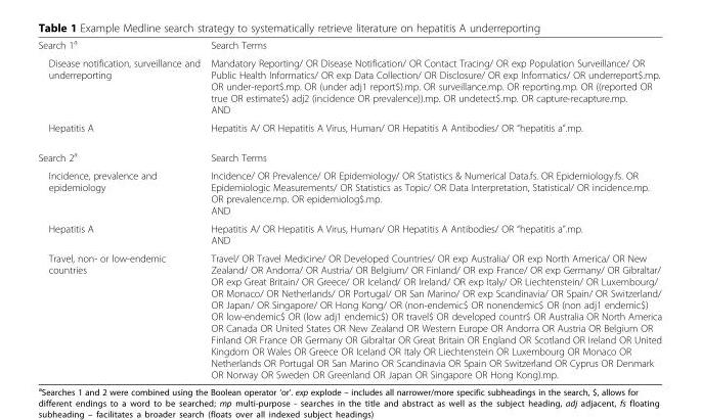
<table><tbody><tr><td>Search 1<sup>a</sup></td><td>Search Terms</td></tr><tr><td>Disease notification, surveillance and underreporting</td><td>Mandatory Reporting/ OR Disease Notification/ OR Contact Tracing/ OR exp Population Surveillance/ OR Public Health Informatics/ OR exp Data Collection/ OR Disclosure/ OR exp Informatics/ OR underreport$.mp. OR under-report$.mp. OR (under adj1 report$).mp. OR surveillance.mp. OR reporting.mp. OR ((reported OR true OR estimate$) adj2 (incidence OR prevalence)).mp. OR undetect$.mp. OR capture-recapture.mp. AND</td></tr><tr><td>Hepatitis A</td><td>Hepatitis A/ OR Hepatitis A Virus, Human/ OR Hepatitis A Antibodies/ OR “hepatitis a”.mp.</td></tr><tr><td>Search 2<sup>a</sup></td><td>Search Terms</td></tr><tr><td>Incidence, prevalence and epidemiology</td><td>Incidence/ OR Prevalence/ OR Epidemiology/ OR Statistics &amp; Numerical Data.fs. OR Epidemiology.fs. OR Epidemiologic Measurements/ OR Statistics as Topic/ OR Data Interpretation, Statistical/ OR incidence.mp. OR prevalence.mp. OR epidemiolog$.mp. AND</td></tr><tr><td>Hepatitis A</td><td>Hepatitis A/ OR Hepatitis A Virus, Human/ OR Hepatitis A Antibodies/ OR “hepatitis a”.mp. AND</td></tr><tr><td>Travel, non- or low-endemic countries</td><td>Travel/ OR Travel Medicine/ OR Developed Countries/ OR exp Australia/ OR exp North America/ OR New Zealand/ OR Andorra/ OR Austria/ OR Belgium/ OR Finland/ OR exp France/ OR exp Germany/ OR Gibraltar/ OR exp Great Britain/ OR Greece/ OR Iceland/ OR Ireland/ OR exp Italy/ OR Liechtenstein/ OR Luxembourg/ OR Monaco/ OR Netherlands/ OR Portugal/ OR San Marino/ OR exp Scandinavia/ OR Spain/ OR Switzerland/ OR Japan/ OR Singapore/ OR Hong Kong/ OR (non-endemic$ OR nonendemic$ OR (non adj1 endemic$) OR low-endemic$ OR (low adj1 endemic$) OR travel$ OR developed countr$ OR Australia OR North America OR Canada OR United States OR New Zealand OR Western Europe OR Andorra OR Austria OR Belgium OR Finland OR France OR Germany OR Gibraltar OR Great Britain OR England OR Scotland OR Ireland OR United Kingdom OR Wales OR Greece OR Iceland OR Italy OR Liechtenstein OR Luxembourg OR Monaco OR Netherlands OR Portugal OR San Marino OR Scandinavia OR Spain OR Switzerland OR Cyprus OR Denmark OR Norway OR Sweden OR Greenland OR Japan OR Singapore OR Hong Kong).mp.</td></tr></tbody></table>